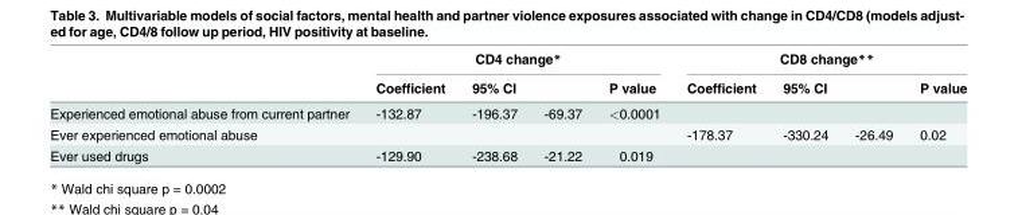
<table><thead><tr><td rowspan="2"></td><td colspan="4">CD4 change*</td><td colspan="4">CD8 change**</td></tr><tr><td>Coefficient</td><td>95% CI</td><td></td><td>P value</td><td>Coefficient</td><td>95% CI</td><td></td><td>P value</td></tr></thead><tbody><tr><td>Experienced emotional abuse from current partner</td><td>-132.87</td><td>-196.37</td><td>-69.37</td><td>&lt;0.0001</td><td></td><td></td><td></td><td></td></tr><tr><td>Ever experienced emotional abuse</td><td></td><td></td><td></td><td></td><td>-178.37</td><td>-330.24</td><td>-26.49</td><td>0.02</td></tr><tr><td>Ever used drugs</td><td>-129.90</td><td>-238.68</td><td>-21.22</td><td>0.019</td><td></td><td></td><td></td><td></td></tr></tbody></table>